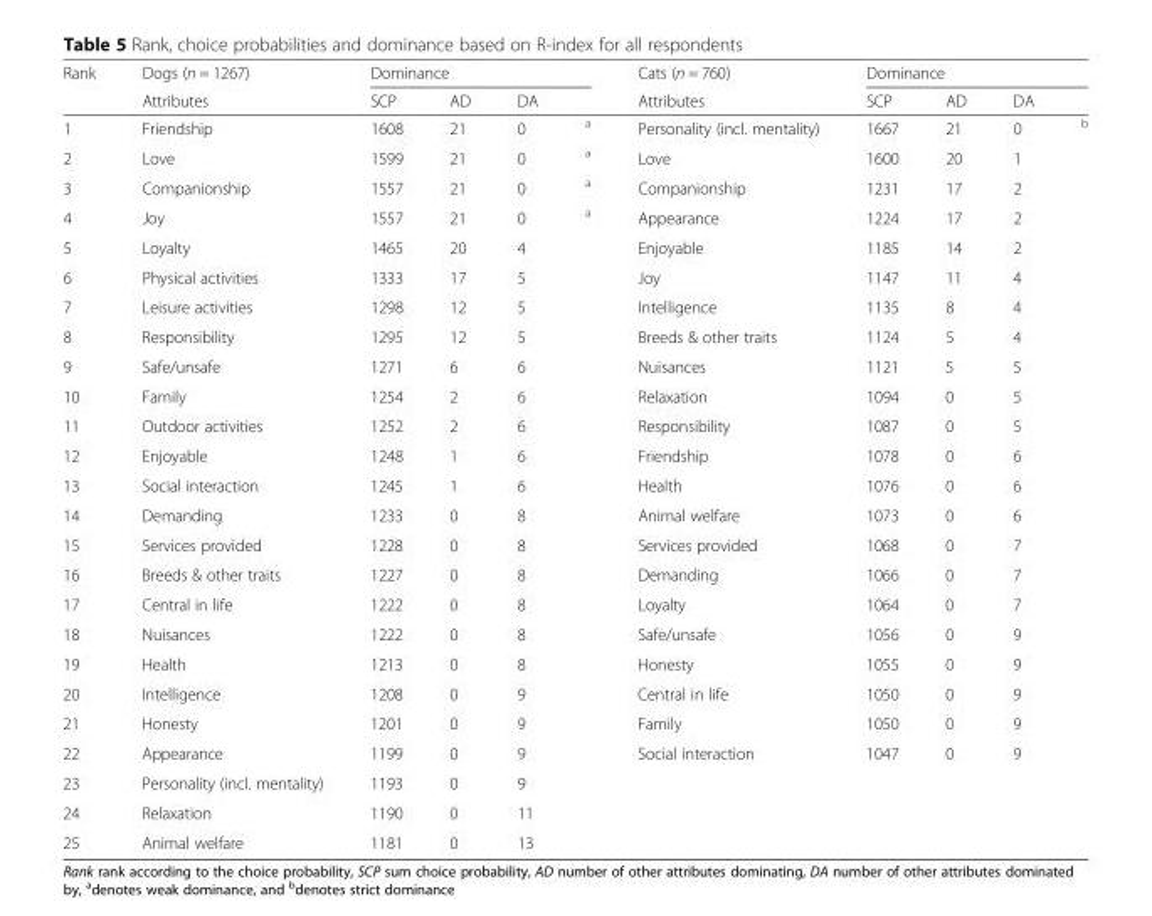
<table><thead><tr><td rowspan="2">Rank</td><td rowspan="2">Dogs (n = 1267) Attributes</td><td colspan="4">Dominance</td><td rowspan="2">Cats (n = 760) Attributes</td><td colspan="4">Dominance</td></tr><tr><td>SCP</td><td>AD</td><td>DA</td><td></td><td>SCP</td><td>AD</td><td>DA</td><td></td></tr></thead><tbody><tr><td>1</td><td>Friendship</td><td>1608</td><td>21</td><td>0</td><td><sup>a</sup></td><td>Personality (incl. mentality)</td><td>1667</td><td>21</td><td>0</td><td><sup>b</sup></td></tr><tr><td>2</td><td>Love</td><td>1599</td><td>21</td><td>0</td><td><sup>a</sup></td><td>Love</td><td>1600</td><td>20</td><td>1</td><td></td></tr><tr><td>3</td><td>Companionship</td><td>1557</td><td>21</td><td>0</td><td><sup>a</sup></td><td>Companionship</td><td>1231</td><td>17</td><td>2</td><td></td></tr><tr><td>4</td><td>Joy</td><td>1557</td><td>21</td><td>0</td><td><sup>a</sup></td><td>Appearance</td><td>1224</td><td>17</td><td>2</td><td></td></tr><tr><td>5</td><td>Loyalty</td><td>1465</td><td>20</td><td>4</td><td></td><td>Enjoyable</td><td>1185</td><td>14</td><td>2</td><td></td></tr><tr><td>6</td><td>Physical activities</td><td>1333</td><td>17</td><td>5</td><td></td><td>Joy</td><td>1147</td><td>11</td><td>4</td><td></td></tr><tr><td>7</td><td>Leisure activities</td><td>1298</td><td>12</td><td>5</td><td></td><td>Intelligence</td><td>1135</td><td>8</td><td>4</td><td></td></tr><tr><td>8</td><td>Responsibility</td><td>1295</td><td>12</td><td>5</td><td></td><td>Breeds &amp; other traits</td><td>1124</td><td>5</td><td>4</td><td></td></tr><tr><td>9</td><td>Safe/unsafe</td><td>1271</td><td>6</td><td>6</td><td></td><td>Nuisances</td><td>1121</td><td>5</td><td>5</td><td></td></tr><tr><td>10</td><td>Family</td><td>1254</td><td>2</td><td>6</td><td></td><td>Relaxation</td><td>1094</td><td>0</td><td>5</td><td></td></tr><tr><td>11</td><td>Outdoor activities</td><td>1252</td><td>2</td><td>6</td><td></td><td>Responsibility</td><td>1087</td><td>0</td><td>5</td><td></td></tr><tr><td>12</td><td>Enjoyable</td><td>1248</td><td>1</td><td>6</td><td></td><td>Friendship</td><td>1078</td><td>0</td><td>6</td><td></td></tr><tr><td>13</td><td>Social interaction</td><td>1245</td><td>1</td><td>6</td><td></td><td>Health</td><td>1076</td><td>0</td><td>6</td><td></td></tr><tr><td>14</td><td>Demanding</td><td>1233</td><td>0</td><td>8</td><td></td><td>Animal welfare</td><td>1073</td><td>0</td><td>6</td><td></td></tr><tr><td>15</td><td>Services provided</td><td>1228</td><td>0</td><td>8</td><td></td><td>Services provided</td><td>1068</td><td>0</td><td>7</td><td></td></tr><tr><td>16</td><td>Breeds &amp; other traits</td><td>1227</td><td>0</td><td>8</td><td></td><td>Demanding</td><td>1066</td><td>0</td><td>7</td><td></td></tr><tr><td>17</td><td>Central in life</td><td>1222</td><td>0</td><td>8</td><td></td><td>Loyalty</td><td>1064</td><td>0</td><td>7</td><td></td></tr><tr><td>18</td><td>Nuisances</td><td>1222</td><td>0</td><td>8</td><td></td><td>Safe/unsafe</td><td>1056</td><td>0</td><td>9</td><td></td></tr><tr><td>19</td><td>Health</td><td>1213</td><td>0</td><td>8</td><td></td><td>Honesty</td><td>1055</td><td>0</td><td>9</td><td></td></tr><tr><td>20</td><td>Intelligence</td><td>1208</td><td>0</td><td>9</td><td></td><td>Central in life</td><td>1050</td><td>0</td><td>9</td><td></td></tr><tr><td>21</td><td>Honesty</td><td>1201</td><td>0</td><td>9</td><td></td><td>Family</td><td>1050</td><td>0</td><td>9</td><td></td></tr><tr><td>22</td><td>Appearance</td><td>1199</td><td>0</td><td>9</td><td></td><td>Social interaction</td><td>1047</td><td>0</td><td>9</td><td></td></tr><tr><td>23</td><td>Personality (incl. mentality)</td><td>1193</td><td>0</td><td>9</td><td></td><td></td><td></td><td></td><td></td><td></td></tr><tr><td>24</td><td>Relaxation</td><td>1190</td><td>0</td><td>11</td><td></td><td></td><td></td><td></td><td></td><td></td></tr><tr><td>25</td><td>Animal welfare</td><td>1181</td><td>0</td><td>13</td><td></td><td></td><td></td><td></td><td></td><td></td></tr></tbody></table>